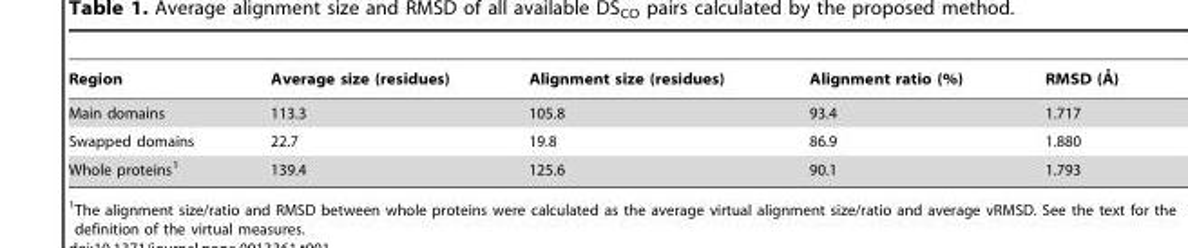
<table><thead><tr><td>Region</td><td>Average size (residues)</td><td>Alignment size (residues)</td><td>Alignment ratio (%)</td><td>RMSD (A˚)</td></tr></thead><tbody><tr><td>Main domains</td><td>113.3</td><td>105.8</td><td>93.4</td><td>1.717</td></tr><tr><td>Swapped domains</td><td>22.7</td><td>19.8</td><td>86.9</td><td>1.880</td></tr><tr><td>Whole proteins<sup>1</sup></td><td>139.4</td><td>125.6</td><td>90.1</td><td>1.793</td></tr></tbody></table>